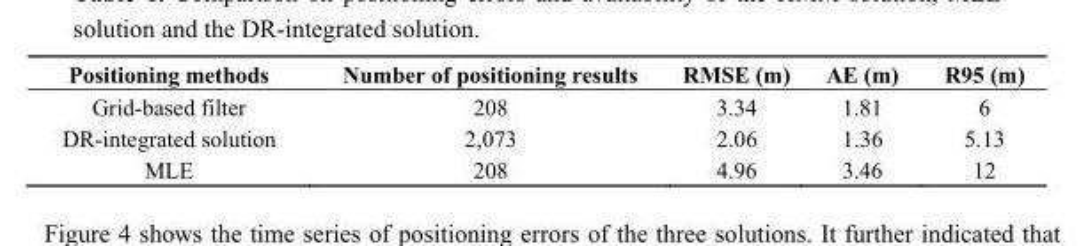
<table><thead><tr><td>Positioning methods</td><td>Number of positioning results</td><td>RMSE (m)</td><td>AE (m)</td><td>R95 (m)</td></tr></thead><tbody><tr><td>Grid-based filter</td><td>208</td><td>3.34</td><td>1.81</td><td>6</td></tr><tr><td>DR-integrated solution</td><td>2,073</td><td>2.06</td><td>1.36</td><td>5.13</td></tr><tr><td>MLE</td><td>208</td><td>4.96</td><td>3.46</td><td>12</td></tr></tbody></table>